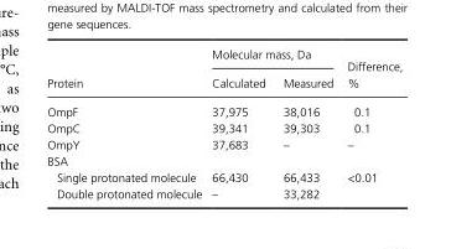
<table><thead><tr><td rowspan="2">Protein</td><td colspan="2">Molecular mass, Da</td><td rowspan="2">Difference, %</td></tr><tr><td>Calculated</td><td>Measured</td></tr></thead><tbody><tr><td>OmpF</td><td>37,975</td><td>38,016</td><td>0.1</td></tr><tr><td>OmpC</td><td>39,341</td><td>39,303</td><td>0.1</td></tr><tr><td>OmpY</td><td>37,683</td><td>–</td><td>–</td></tr><tr><td colspan="4">BSA</td></tr><tr><td>Single protonated molecule</td><td>66,430</td><td>66,433</td><td>&lt;0.01</td></tr><tr><td>Double protonated molecule</td><td>–</td><td>33,282</td><td></td></tr></tbody></table>